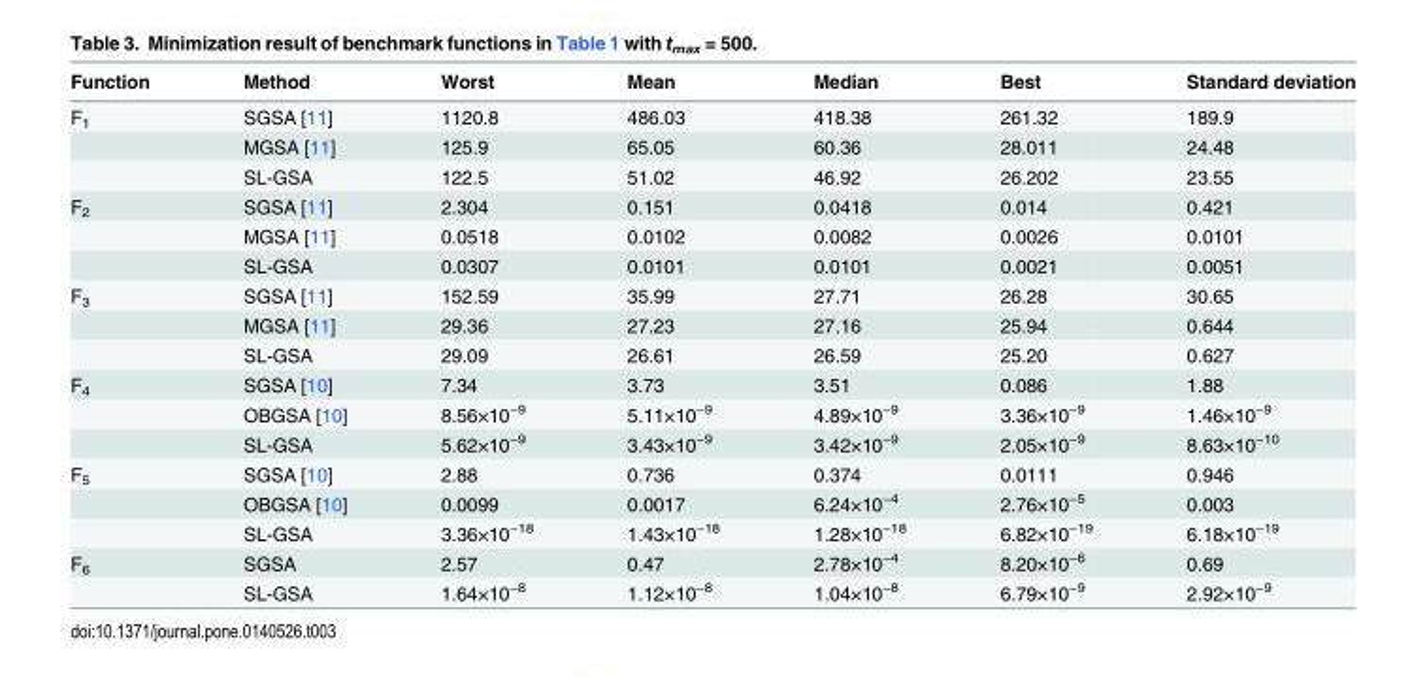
<table><thead><tr><td>Function</td><td>Method</td><td>Worst</td><td>Mean</td><td>Median</td><td>Best</td><td>Standard deviation</td></tr></thead><tbody><tr><td rowspan="3">F<sub>1</sub></td><td>SGSA [11]</td><td>1120.8</td><td>486.03</td><td>418.38</td><td>261.32</td><td>189.9</td></tr><tr><td>MGSA [11]</td><td>125.9</td><td>65.05</td><td>60.36</td><td>28.011</td><td>24.48</td></tr><tr><td>SL-GSA</td><td>122.5</td><td>51.02</td><td>46.92</td><td>26.202</td><td>23.55</td></tr><tr><td rowspan="3">F<sub>2</sub></td><td>SGSA [11]</td><td>2.304</td><td>0.151</td><td>0.0418</td><td>0.014</td><td>0.421</td></tr><tr><td>MGSA [11]</td><td>0.0518</td><td>0.0102</td><td>0.0082</td><td>0.0026</td><td>0.0101</td></tr><tr><td>SL-GSA</td><td>0.0307</td><td>0.0101</td><td>0.0101</td><td>0.0021</td><td>0.0051</td></tr><tr><td rowspan="3">F<sub>3</sub></td><td>SGSA [11]</td><td>152.59</td><td>35.99</td><td>27.71</td><td>26.28</td><td>30.65</td></tr><tr><td>MGSA [11]</td><td>29.36</td><td>27.23</td><td>27.16</td><td>25.94</td><td>0.644</td></tr><tr><td>SL-GSA</td><td>29.09</td><td>26.61</td><td>26.59</td><td>25.20</td><td>0.627</td></tr><tr><td rowspan="3">F<sub>4</sub></td><td>SGSA [10]</td><td>7.34</td><td>3.73</td><td>3.51</td><td>0.086</td><td>1.88</td></tr><tr><td>OBGSA [10]</td><td>8.56×10<sup>−9</sup></td><td>5.11×10<sup>−9</sup></td><td>4.89×10<sup>−9</sup></td><td>3.36×10<sup>−9</sup></td><td>1.46×10<sup>−9</sup></td></tr><tr><td>SL-GSA</td><td>5.62×10<sup>−9</sup></td><td>3.43×10<sup>−9</sup></td><td>3.42×10<sup>−9</sup></td><td>2.05×10<sup>−9</sup></td><td>8.63×10<sup>−10</sup></td></tr><tr><td rowspan="3">F<sub>5</sub></td><td>SGSA [10]</td><td>2.88</td><td>0.736</td><td>0.374</td><td>0.0111</td><td>0.946</td></tr><tr><td>OBGSA [10]</td><td>0.0099</td><td>0.0017</td><td>6.24×10<sup>−4</sup></td><td>2.76×10<sup>−5</sup></td><td>0.003</td></tr><tr><td>SL-GSA</td><td>3.36×10<sup>−18</sup></td><td>1.43×10<sup>−18</sup></td><td>1.28×10<sup>−18</sup></td><td>6.82×10<sup>−19</sup></td><td>6.18×10<sup>−19</sup></td></tr><tr><td rowspan="2">F<sub>6</sub></td><td>SGSA</td><td>2.57</td><td>0.47</td><td>2.78×10<sup>−4</sup></td><td>8.20×10<sup>−6</sup></td><td>0.69</td></tr><tr><td>SL-GSA</td><td>1.64×10<sup>−8</sup></td><td>1.12×10<sup>−8</sup></td><td>1.04×10<sup>−8</sup></td><td>6.79×10<sup>−9</sup></td><td>2.92×10<sup>−9</sup></td></tr></tbody></table>